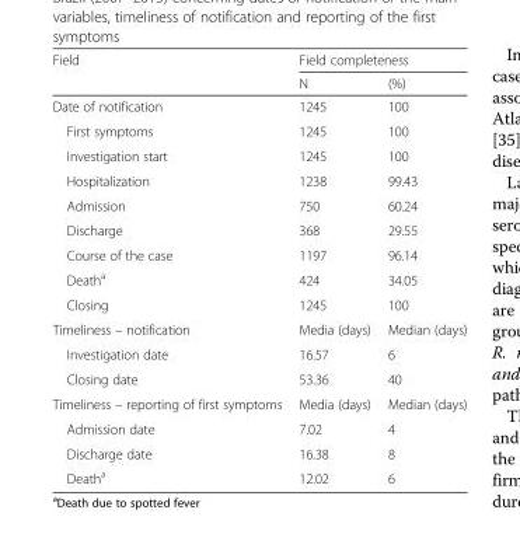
<table><thead><tr><td rowspan="2">Field</td><td colspan="2">Field completeness</td></tr><tr><td>N</td><td>(%)</td></tr></thead><tbody><tr><td>Date of notification</td><td>1245</td><td>100</td></tr><tr><td>First symptoms</td><td>1245</td><td>100</td></tr><tr><td>Investigation start</td><td>1245</td><td>100</td></tr><tr><td>Hospitalization</td><td>1238</td><td>99.43</td></tr><tr><td>Admission</td><td>750</td><td>60.24</td></tr><tr><td>Discharge</td><td>368</td><td>29.55</td></tr><tr><td>Course of the case</td><td>1197</td><td>96.14</td></tr><tr><td>Death<sup>a</sup></td><td>424</td><td>34.05</td></tr><tr><td>Closing</td><td>1245</td><td>100</td></tr><tr><td>Timeliness – notification</td><td>Media (days)</td><td>Median (days)</td></tr><tr><td>Investigation date</td><td>16.57</td><td>6</td></tr><tr><td>Closing date</td><td>53.36</td><td>40</td></tr><tr><td>Timeliness – reporting of first symptoms</td><td>Media (days)</td><td>Median (days)</td></tr><tr><td>Admission date</td><td>7.02</td><td>4</td></tr><tr><td>Discharge date</td><td>16.38</td><td>8</td></tr><tr><td>Death<sup>a</sup></td><td>12.02</td><td>6</td></tr></tbody></table>